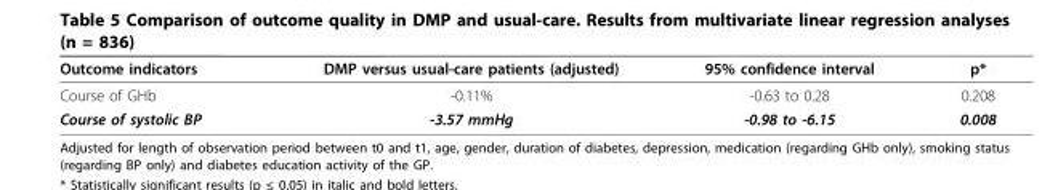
<table><thead><tr><td>Outcome indicators</td><td>DMP versus usual-care patients (adjusted)</td><td>95% confidence interval</td><td>p*</td></tr></thead><tbody><tr><td>Course of GHb</td><td>-0.11%</td><td>-0.63 to 0.28</td><td>0.208</td></tr><tr><td>Course of systolic BP</td><td>-3.57 mmHg</td><td>-0.98 to -6.15</td><td>0.008</td></tr></tbody></table>